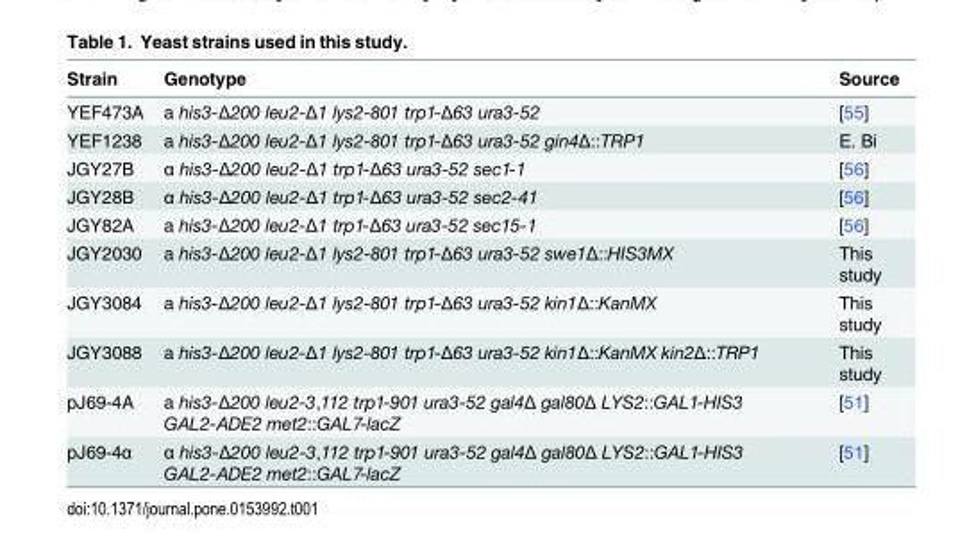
<table><thead><tr><td>Strain</td><td>Genotype</td><td>Source</td></tr></thead><tbody><tr><td>YEF473A</td><td>a his3-Δ200 leu2-Δ1 lys2-801 trp1-Δ63 ura3-52</td><td>[55]</td></tr><tr><td>YEF1238</td><td>a his3-Δ200 leu2-Δ1 lys2-801 trp1-Δ63 ura3-52 gin4Δ::TRP1</td><td>E. Bi</td></tr><tr><td>JGY27B</td><td>α his3-Δ200 leu2-Δ1 trp1-Δ63 ura3-52 sec1-1</td><td>[56]</td></tr><tr><td>JGY28B</td><td>α his3-Δ200 leu2-Δ1 trp1-Δ63 ura3-52 sec2-41</td><td>[56]</td></tr><tr><td>JGY82A</td><td>a his3-Δ200 leu2-Δ1 trp1-Δ63 ura3-52 sec15-1</td><td>[56]</td></tr><tr><td>JGY2030</td><td>a his3-Δ200 leu2-Δ1 lys2-801 trp1-Δ63 ura3-52 swe1Δ::HIS3MX</td><td>This study</td></tr><tr><td>JGY3084</td><td>a his3-Δ200 leu2-Δ1 lys2-801 trp1-Δ63 ura3-52 kin1Δ::KanMX</td><td>This study</td></tr><tr><td>JGY3088</td><td>a his3-Δ200 leu2-Δ1 lys2-801 trp1-Δ63 ura3-52 kin1Δ::KanMX kin2Δ::TRP1</td><td>This study</td></tr><tr><td>pJ69-4A</td><td>a his3-Δ200 leu2-3,112 trp1-901 ura3-52 gal4Δ gal80Δ LYS2::GAL1-HIS3 GAL2-ADE2 met2::GAL7-lacZ</td><td>[51]</td></tr><tr><td>pJ69-4α</td><td>α his3-Δ200 leu2-3,112 trp1-901 ura3-52 gal4Δ gal80Δ LYS2::GAL1-HIS3 GAL2-ADE2 met2::GAL7-lacZ</td><td>[51]</td></tr></tbody></table>